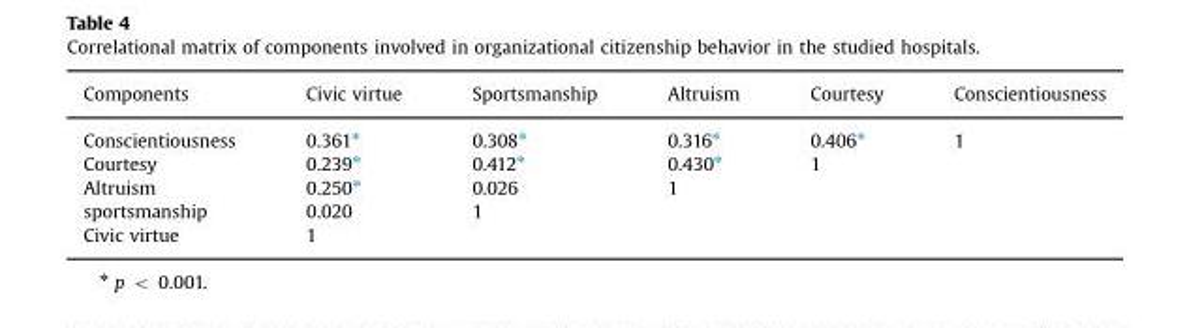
<table><thead><tr><td>Components</td><td>Civic virtue</td><td>Sportsmanship</td><td>Altruism</td><td>Courtesy</td><td>Conscientiousness</td></tr></thead><tbody><tr><td>Conscientiousness</td><td>0.361⁎</td><td>0.308⁎</td><td>0.316⁎</td><td>0.406⁎</td><td>1</td></tr><tr><td>Courtesy</td><td>0.239⁎</td><td>0.412⁎</td><td>0.430⁎</td><td>1</td><td></td></tr><tr><td>Altruism</td><td>0.250⁎</td><td>0.026</td><td>1</td><td></td><td></td></tr><tr><td>sportsmanship</td><td>0.020</td><td>1</td><td></td><td></td><td></td></tr><tr><td>Civic virtue</td><td>1</td><td></td><td></td><td></td><td></td></tr></tbody></table>